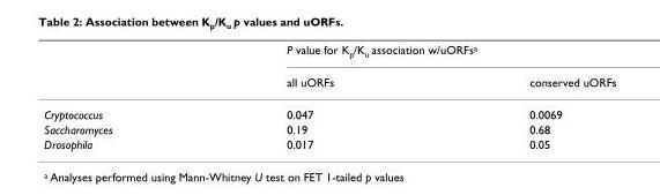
<table><thead><tr><td rowspan="2"></td><td colspan="2">P value for K<sub>p</sub>/K<sub>u</sub> association w/uORFs<sup>a</sup></td></tr><tr><td>all uORFs</td><td>conserved uORFs</td></tr></thead><tbody><tr><td>Cryptococcus</td><td>0.047</td><td>0.0069</td></tr><tr><td>Saccharomyces</td><td>0.19</td><td>0.68</td></tr><tr><td>Drosophila</td><td>0.017</td><td>0.05</td></tr></tbody></table>